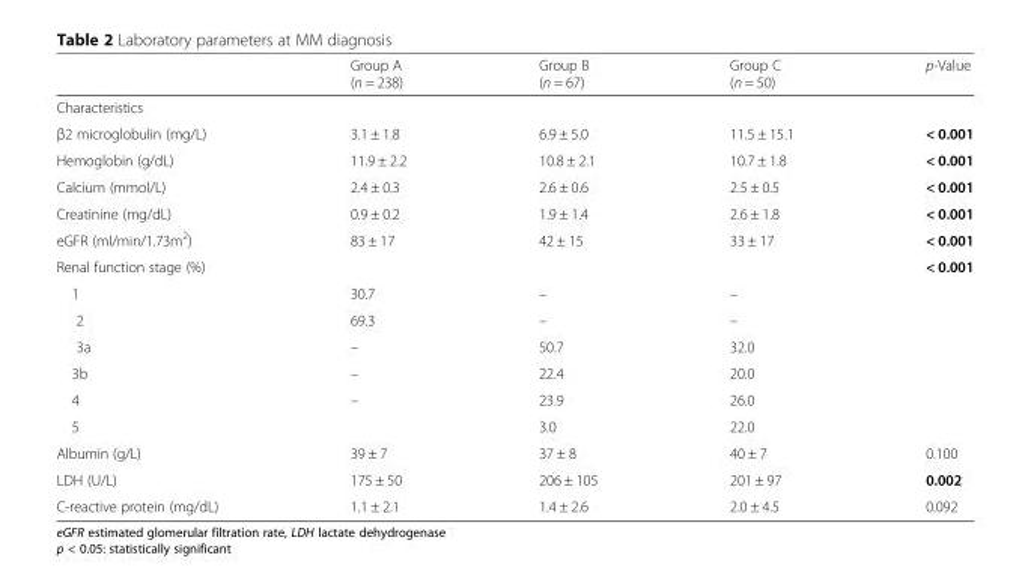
<table><thead><tr><td></td><td>Group A (n = 238)</td><td>Group B (n = 67)</td><td>Group C (n = 50)</td><td>p-Value</td></tr></thead><tbody><tr><td colspan="5">Characteristics</td></tr><tr><td>β2 microglobulin (mg/L)</td><td>3.1 ± 1.8</td><td>6.9 ± 5.0</td><td>11.5 ± 15.1</td><td>&lt; 0.001</td></tr><tr><td>Hemoglobin (g/dL)</td><td>11.9 ± 2.2</td><td>10.8 ± 2.1</td><td>10.7 ± 1.8</td><td>&lt; 0.001</td></tr><tr><td>Calcium (mmol/L)</td><td>2.4 ± 0.3</td><td>2.6 ± 0.6</td><td>2.5 ± 0.5</td><td>&lt; 0.001</td></tr><tr><td>Creatinine (mg/dL)</td><td>0.9 ± 0.2</td><td>1.9 ± 1.4</td><td>2.6 ± 1.8</td><td>&lt; 0.001</td></tr><tr><td>eGFR (ml/min/1.73m<sup>2</sup>)</td><td>83 ± 17</td><td>42 ± 15</td><td>33 ± 17</td><td>&lt; 0.001</td></tr><tr><td>Renal function stage (%)</td><td></td><td></td><td></td><td>&lt; 0.001</td></tr><tr><td>1</td><td>30.7</td><td>–</td><td>–</td><td></td></tr><tr><td>2</td><td>69.3</td><td>–</td><td>–</td><td></td></tr><tr><td>3a</td><td>–</td><td>50.7</td><td>32.0</td><td></td></tr><tr><td>3b</td><td>–</td><td>22.4</td><td>20.0</td><td></td></tr><tr><td>4</td><td>–</td><td>23.9</td><td>26.0</td><td></td></tr><tr><td>5</td><td></td><td>3.0</td><td>22.0</td><td></td></tr><tr><td>Albumin (g/L)</td><td>39 ± 7</td><td>37 ± 8</td><td>40 ± 7</td><td>0.100</td></tr><tr><td>LDH (U/L)</td><td>175 ± 50</td><td>206 ± 105</td><td>201 ± 97</td><td>0.002</td></tr><tr><td>C-reactive protein (mg/dL)</td><td>1.1 ± 2.1</td><td>1.4 ± 2.6</td><td>2.0 ± 4.5</td><td>0.092</td></tr></tbody></table>